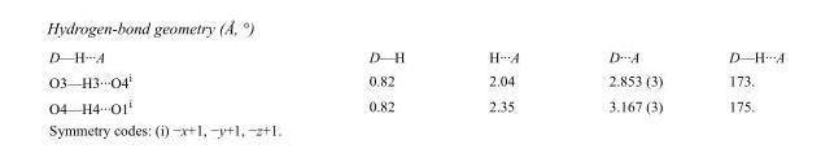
<table><tbody><tr><td>D—H···A</td><td>D—H</td><td>H···A</td><td>D···A</td><td>D—H···A</td></tr><tr><td>O3—H3···O4<sup>i</sup></td><td>0.82</td><td>2.04</td><td>2.853 (3)</td><td>173.</td></tr><tr><td>O4—H4···O1<sup>i</sup></td><td>0.82</td><td>2.35</td><td>3.167 (3)</td><td>175.</td></tr></tbody></table>